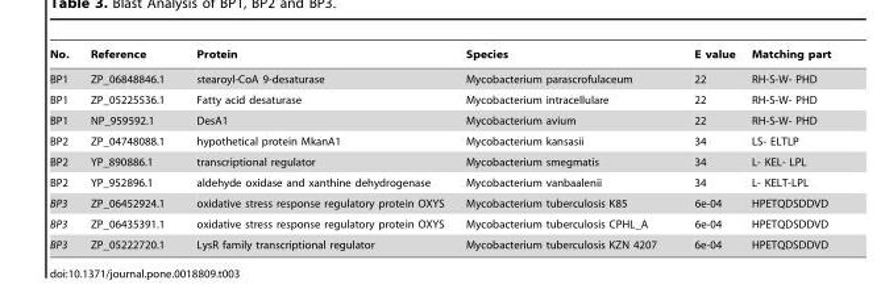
<table><thead><tr><td>No.</td><td>Reference</td><td>Protein</td><td>Species</td><td>E value</td><td>Matching part</td></tr></thead><tbody><tr><td>BP1</td><td>ZP_06848846.1</td><td>stearoyl-CoA 9-desaturase</td><td>Mycobacterium parascrofulaceum</td><td>22</td><td>RH-S-W- PHD</td></tr><tr><td>BP1</td><td>ZP_05225536.1</td><td>Fatty acid desaturase</td><td>Mycobacterium intracellulare</td><td>22</td><td>RH-S-W- PHD</td></tr><tr><td>BP1</td><td>NP_959592.1</td><td>DesA1</td><td>Mycobacterium avium</td><td>22</td><td>RH-S-W- PHD</td></tr><tr><td>BP2</td><td>ZP_04748088.1</td><td>hypothetical protein MkanA1</td><td>Mycobacterium kansasii</td><td>34</td><td>LS- ELTLP</td></tr><tr><td>BP2</td><td>YP_890886.1</td><td>transcriptional regulator</td><td>Mycobacterium smegmatis</td><td>34</td><td>L- KEL- LPL</td></tr><tr><td>BP2</td><td>YP_952896.1</td><td>aldehyde oxidase and xanthine dehydrogenase</td><td>Mycobacterium vanbaalenii</td><td>34</td><td>L- KELT-LPL</td></tr><tr><td>BP3</td><td>ZP_06452924.1</td><td>oxidative stress response regulatory protein OXYS</td><td>Mycobacterium tuberculosis K85</td><td>6e-04</td><td>HPETQDSDDVD</td></tr><tr><td>BP3</td><td>ZP_06435391.1</td><td>oxidative stress response regulatory protein OXYS</td><td>Mycobacterium tuberculosis CPHL_A</td><td>6e-04</td><td>HPETQDSDDVD</td></tr><tr><td>BP3</td><td>ZP_05222720.1</td><td>LysR family transcriptional regulator</td><td>Mycobacterium tuberculosis KZN 4207</td><td>6e-04</td><td>HPETQDSDDVD</td></tr></tbody></table>